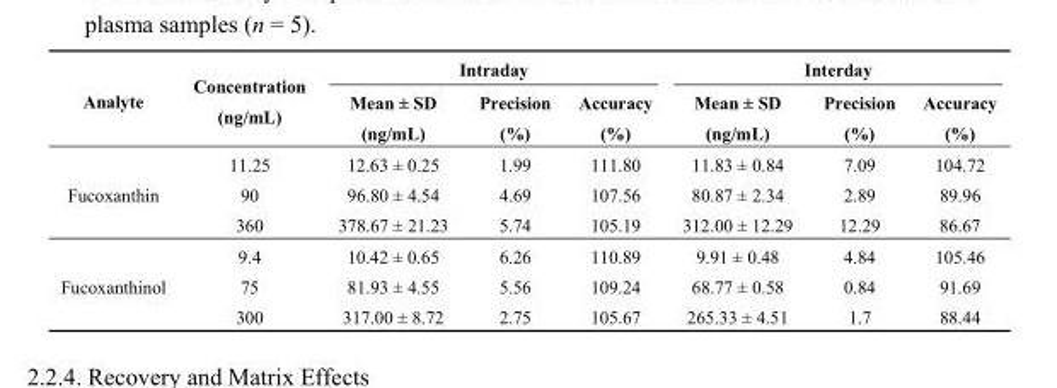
<table><thead><tr><td rowspan="2">Analyte</td><td rowspan="2">Concentration (ng/mL)</td><td colspan="3">Intraday</td><td colspan="3">Interday</td></tr><tr><td>Mean ± SD (ng/mL)</td><td>Precision (%)</td><td>Accuracy (%)</td><td>Mean ± SD (ng/mL)</td><td>Precision (%)</td><td>Accuracy (%)</td></tr></thead><tbody><tr><td rowspan="3">Fucoxanthin</td><td>11.25</td><td>12.63 ± 0.25</td><td>1.99</td><td>111.80</td><td>11.83 ± 0.84</td><td>7.09</td><td>104.72</td></tr><tr><td>90</td><td>96.80 ± 4.54</td><td>4.69</td><td>107.56</td><td>80.87 ± 2.34</td><td>2.89</td><td>89.96</td></tr><tr><td>360</td><td>378.67 ± 21.23</td><td>5.74</td><td>105.19</td><td>312.00 ± 12.29</td><td>12.29</td><td>86.67</td></tr><tr><td rowspan="3">Fucoxanthinol</td><td>9.4</td><td>10.42 ± 0.65</td><td>6.26</td><td>110.89</td><td>9.91 ± 0.48</td><td>4.84</td><td>105.46</td></tr><tr><td>75</td><td>81.93 ± 4.55</td><td>5.56</td><td>109.24</td><td>68.77 ± 0.58</td><td>0.84</td><td>91.69</td></tr><tr><td>300</td><td>317.00 ± 8.72</td><td>2.75</td><td>105.67</td><td>265.33 ± 4.51</td><td>1.7</td><td>88.44</td></tr></tbody></table>